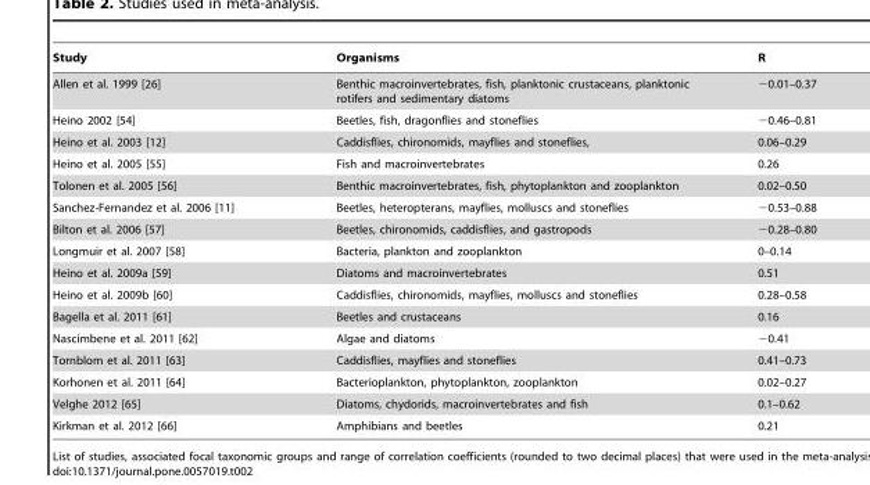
<table><thead><tr><td>Study</td><td>Organisms</td><td>R</td></tr></thead><tbody><tr><td>Allen et al. 1999 [26]</td><td>Benthic macroinvertebrates, fish, planktonic crustaceans, planktonic rotifers and sedimentary diatoms</td><td>−0.01–0.37</td></tr><tr><td>Heino 2002 [54]</td><td>Beetles, fish, dragonflies and stoneflies</td><td>−0.46–0.81</td></tr><tr><td>Heino et al. 2003 [12]</td><td>Caddisflies, chironomids, mayflies and stoneflies,</td><td>0.06–0.29</td></tr><tr><td>Heino et al. 2005 [55]</td><td>Fish and macroinvertebrates</td><td>0.26</td></tr><tr><td>Tolonen et al. 2005 [56]</td><td>Benthic macroinvertebrates, fish, phytoplankton and zooplankton</td><td>0.02–0.50</td></tr><tr><td>Sanchez-Fernandez et al. 2006 [11]</td><td>Beetles, heteropterans, mayflies, molluscs and stoneflies</td><td>−0.53–0.88</td></tr><tr><td>Bilton et al. 2006 [57]</td><td>Beetles, chironomids, caddisflies, and gastropods</td><td>−0.28–0.80</td></tr><tr><td>Longmuir et al. 2007 [58]</td><td>Bacteria, plankton and zooplankton</td><td>0–0.14</td></tr><tr><td>Heino et al. 2009a [59]</td><td>Diatoms and macroinvertebrates</td><td>0.51</td></tr><tr><td>Heino et al. 2009b [60]</td><td>Caddisflies, chironomids, mayflies, molluscs and stoneflies</td><td>0.28–0.58</td></tr><tr><td>Bagella et al. 2011 [61]</td><td>Beetles and crustaceans</td><td>0.16</td></tr><tr><td>Nascimbene et al. 2011 [62]</td><td>Algae and diatoms</td><td>−0.41</td></tr><tr><td>Tornblom et al. 2011 [63]</td><td>Caddisflies, mayflies and stoneflies</td><td>0.41–0.73</td></tr><tr><td>Korhonen et al. 2011 [64]</td><td>Bacterioplankton, phytoplankton, zooplankton</td><td>0.02–0.27</td></tr><tr><td>Velghe 2012 [65]</td><td>Diatoms, chydorids, macroinvertebrates and fish</td><td>0.1–0.62</td></tr><tr><td>Kirkman et al. 2012 [66]</td><td>Amphibians and beetles</td><td>0.21</td></tr></tbody></table>